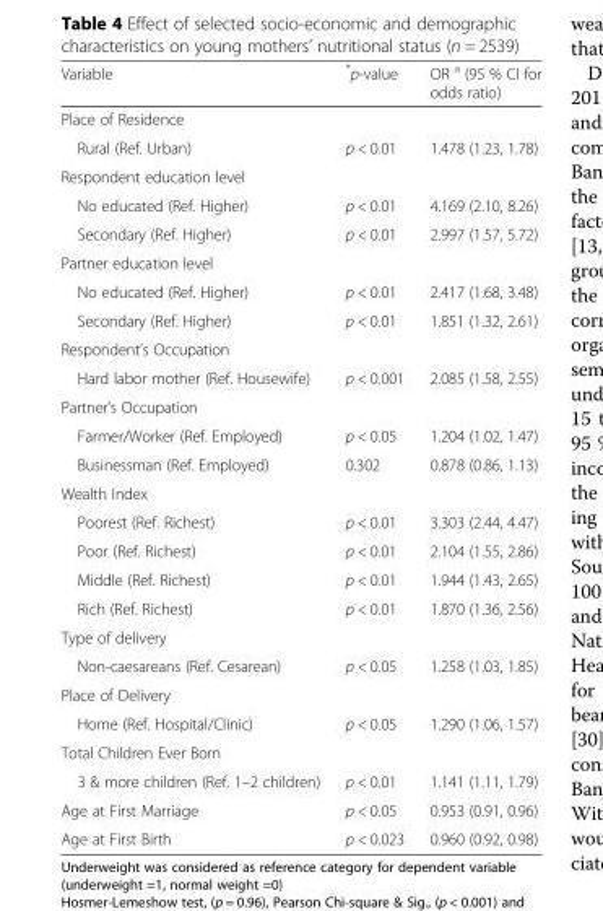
<table><thead><tr><td>Variable</td><td>*p-value</td><td>OR <sup>a</sup> (95 % CI for odds ratio)</td></tr></thead><tbody><tr><td colspan="3">Place of Residence</td></tr><tr><td>Rural (Ref. Urban)</td><td>p &lt; 0.01</td><td>1.478 (1.23, 1.78)</td></tr><tr><td colspan="3">Respondent education level</td></tr><tr><td>No educated (Ref. Higher)</td><td>p &lt; 0.01</td><td>4.169 (2.10, 8.26)</td></tr><tr><td>Secondary (Ref. Higher)</td><td>p &lt; 0.01</td><td>2.997 (1.57, 5.72)</td></tr><tr><td colspan="3">Partner education level</td></tr><tr><td>No educated (Ref. Higher)</td><td>p &lt; 0.01</td><td>2.417 (1.68, 3.48)</td></tr><tr><td>Secondary (Ref. Higher)</td><td>p &lt; 0.01</td><td>1.851 (1.32, 2.61)</td></tr><tr><td colspan="3">Respondent’s Occupation</td></tr><tr><td>Hard labor mother (Ref. Housewife)</td><td>p &lt; 0.001</td><td>2.085 (1.58, 2.55)</td></tr><tr><td colspan="3">Partner’s Occupation</td></tr><tr><td>Farmer/Worker (Ref. Employed)</td><td>p &lt; 0.05</td><td>1.204 (1.02, 1.47)</td></tr><tr><td>Businessman (Ref. Employed)</td><td>0.302</td><td>0.878 (0.86, 1.13)</td></tr><tr><td colspan="3">Wealth Index</td></tr><tr><td>Poorest (Ref. Richest)</td><td>p &lt; 0.01</td><td>3.303 (2.44, 4.47)</td></tr><tr><td>Poor (Ref. Richest)</td><td>p &lt; 0.01</td><td>2.104 (1.55, 2.86)</td></tr><tr><td>Middle (Ref. Richest)</td><td>p &lt; 0.01</td><td>1.944 (1.43, 2.65)</td></tr><tr><td>Rich (Ref. Richest)</td><td>p &lt; 0.01</td><td>1.870 (1.36, 2.56)</td></tr><tr><td colspan="3">Type of delivery</td></tr><tr><td>Non-caesareans (Ref. Cesarean)</td><td>p &lt; 0.05</td><td>1.258 (1.03, 1.85)</td></tr><tr><td colspan="3">Place of Delivery</td></tr><tr><td>Home (Ref. Hospital/Clinic)</td><td>p &lt; 0.05</td><td>1.290 (1.06, 1.57)</td></tr><tr><td colspan="3">Total Children Ever Born</td></tr><tr><td>3 &amp; more children (Ref. 1–2 children)</td><td>p &lt; 0.01</td><td>1.141 (1.11, 1.79)</td></tr><tr><td>Age at First Marriage</td><td>p &lt; 0.05</td><td>0.953 (0.91, 0.96)</td></tr><tr><td>Age at First Birth</td><td>p &lt; 0.023</td><td>0.960 (0.92, 0.98)</td></tr></tbody></table>